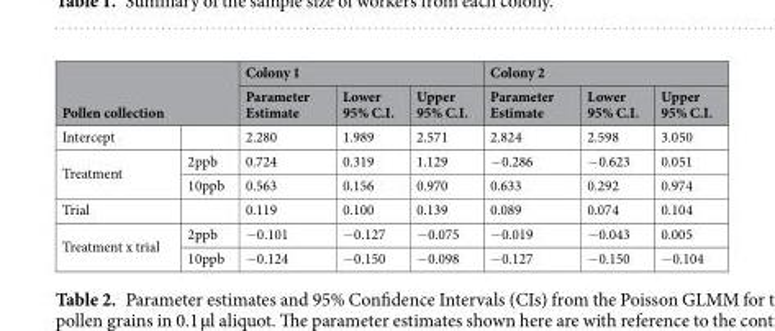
<table><thead><tr><td rowspan="2" colspan="2">Pollen collection</td><td colspan="3">Colony 1</td><td colspan="3">Colony 2</td></tr><tr><td rowspan="2">Parameter Estimate 2.280</td><td rowspan="2">Lower 95% C.I. 1.989</td><td rowspan="2">Upper 95% C.I. 2.571</td><td rowspan="2">Parameter Estimate 2.824</td><td rowspan="2">Lower 95% C.I. 2.598</td><td rowspan="2">Upper 95% C.I. 3.050</td></tr><tr><td>Intercept</td><td></td></tr></thead><tbody><tr><td rowspan="2">Treatment</td><td>2ppb</td><td>0.724</td><td>0.319</td><td>1.129</td><td>−0.286</td><td>−0.623</td><td>0.051</td></tr><tr><td>10ppb</td><td>0.563</td><td>0.156</td><td>0.970</td><td>0.633</td><td>0.292</td><td>0.974</td></tr><tr><td>Trial</td><td></td><td>0.119</td><td>0.100</td><td>0.139</td><td>0.089</td><td>0.074</td><td>0.104</td></tr><tr><td rowspan="2">Treatment x trial</td><td>2ppb</td><td>−0.101</td><td>−0.127</td><td>−0.075</td><td>−0.019</td><td>−0.043</td><td>0.005</td></tr><tr><td>10ppb</td><td>−0.124</td><td>−0.150</td><td>−0.098</td><td>−0.127</td><td>−0.150</td><td>−0.104</td></tr></tbody></table>